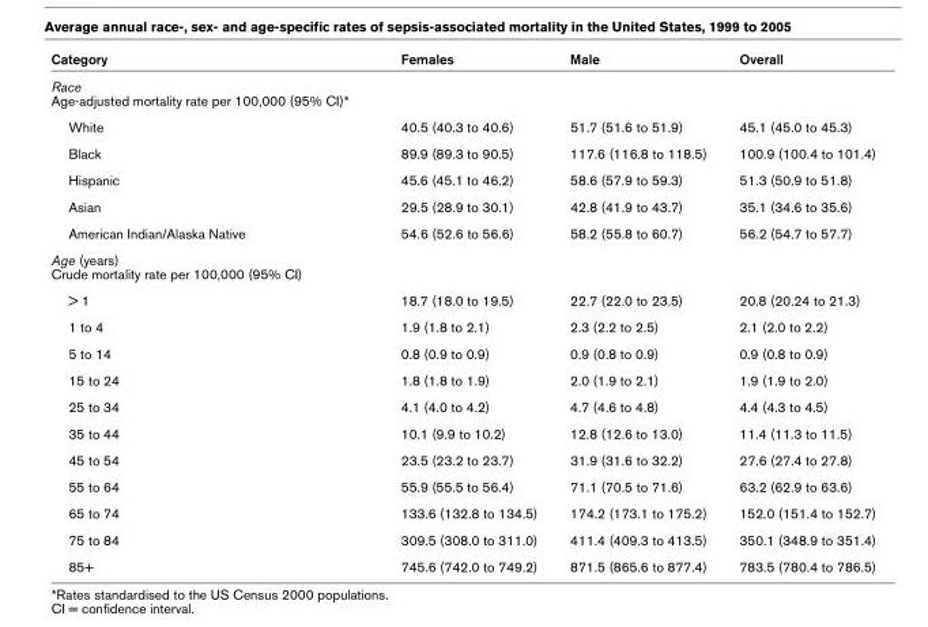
<table><thead><tr><td>Category</td><td>Females</td><td>Male</td><td>Overall</td></tr></thead><tbody><tr><td colspan="4">Race Age-adjusted mortality rate per 100,000 (95% CI)*</td></tr><tr><td>White</td><td>40.5 (40.3 to 40.6)</td><td>51.7 (51.6 to 51.9)</td><td>45.1 (45.0 to 45.3)</td></tr><tr><td>Black</td><td>89.9 (89.3 to 90.5)</td><td>117.6 (116.8 to 118.5)</td><td>100.9 (100.4 to 101.4)</td></tr><tr><td>Hispanic</td><td>45.6 (45.1 to 46.2)</td><td>58.6 (57.9 to 59.3)</td><td>51.3 (50.9 to 51.8)</td></tr><tr><td>Asian</td><td>29.5 (28.9 to 30.1)</td><td>42.8 (41.9 to 43.7)</td><td>35.1 (34.6 to 35.6)</td></tr><tr><td>American Indian/Alaska Native</td><td>54.6 (52.6 to 56.6)</td><td>58.2 (55.8 to 60.7)</td><td>56.2 (54.7 to 57.7)</td></tr><tr><td colspan="4">Age (years) Crude mortality rate per 100,000 (95% CI)</td></tr><tr><td>&gt; 1</td><td>18.7 (18.0 to 19.5)</td><td>22.7 (22.0 to 23.5)</td><td>20.8 (20.24 to 21.3)</td></tr><tr><td>1 to 4</td><td>1.9 (1.8 to 2.1)</td><td>2.3 (2.2 to 2.5)</td><td>2.1 (2.0 to 2.2)</td></tr><tr><td>5 to 14</td><td>0.8 (0.9 to 0.9)</td><td>0.9 (0.8 to 0.9)</td><td>0.9 (0.8 to 0.9)</td></tr><tr><td>15 to 24</td><td>1.8 (1.8 to 1.9)</td><td>2.0 (1.9 to 2.1)</td><td>1.9 (1.9 to 2.0)</td></tr><tr><td>25 to 34</td><td>4.1 (4.0 to 4.2)</td><td>4.7 (4.6 to 4.8)</td><td>4.4 (4.3 to 4.5)</td></tr><tr><td>35 to 44</td><td>10.1 (9.9 to 10.2)</td><td>12.8 (12.6 to 13.0)</td><td>11.4 (11.3 to 11.5)</td></tr><tr><td>45 to 54</td><td>23.5 (23.2 to 23.7)</td><td>31.9 (31.6 to 32.2)</td><td>27.6 (27.4 to 27.8)</td></tr><tr><td>55 to 64</td><td>55.9 (55.5 to 56.4)</td><td>71.1 (70.5 to 71.6)</td><td>63.2 (62.9 to 63.6)</td></tr><tr><td>65 to 74</td><td>133.6 (132.8 to 134.5)</td><td>174.2 (173.1 to 175.2)</td><td>152.0 (151.4 to 152.7)</td></tr><tr><td>75 to 84</td><td>309.5 (308.0 to 311.0)</td><td>411.4 (409.3 to 413.5)</td><td>350.1 (348.9 to 351.4)</td></tr><tr><td>85+</td><td>745.6 (742.0 to 749.2)</td><td>871.5 (865.6 to 877.4)</td><td>783.5 (780.4 to 786.5)</td></tr></tbody></table>